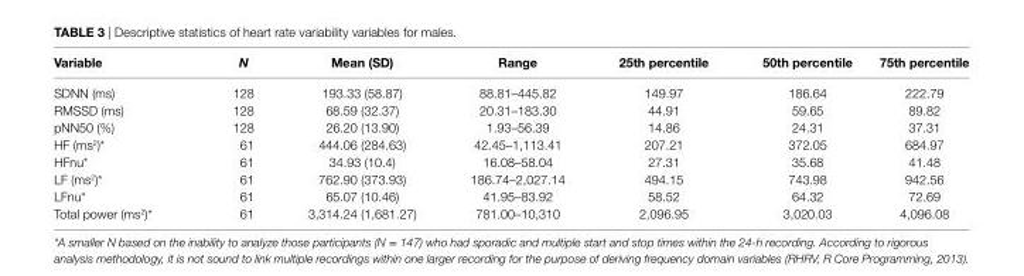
<table><thead><tr><td>Variable</td><td>N</td><td>Mean (sD)</td><td>range</td><td>25th percentile</td><td>50th percentile</td><td>75th percentile</td></tr></thead><tbody><tr><td>SDNN (ms)</td><td>128</td><td>193.33 (58.87)</td><td>88.81–445.82</td><td>149.97</td><td>186.64</td><td>222.79</td></tr><tr><td>RMSSD (ms)</td><td>128</td><td>68.59 (32.37)</td><td>20.31–183.30</td><td>44.91</td><td>59.65</td><td>89.82</td></tr><tr><td>pNN50 (%)</td><td>128</td><td>26.20 (13.90)</td><td>1.93–56.39</td><td>14.86</td><td>24.31</td><td>37.31</td></tr><tr><td>HF (ms<sup>2</sup>)*</td><td>61</td><td>444.06 (284.63)</td><td>42.45–1,113.41</td><td>207.21</td><td>372.05</td><td>684.97</td></tr><tr><td>HFnu*</td><td>61</td><td>34.93 (10.4)</td><td>16.08–58.04</td><td>27.31</td><td>35.68</td><td>41.48</td></tr><tr><td>LF (ms<sup>2</sup>)*</td><td>61</td><td>762.90 (373.93)</td><td>186.74–2,027.14</td><td>494.15</td><td>743.98</td><td>942.56</td></tr><tr><td>LFnu*</td><td>61</td><td>65.07 (10.46)</td><td>41.95–83.92</td><td>58.52</td><td>64.32</td><td>72.69</td></tr><tr><td>Total power (ms<sup>2</sup>)*</td><td>61</td><td>3,314.24 (1,681.27)</td><td>781.00–10,310</td><td>2,096.95</td><td>3,020.03</td><td>4,096.08</td></tr></tbody></table>